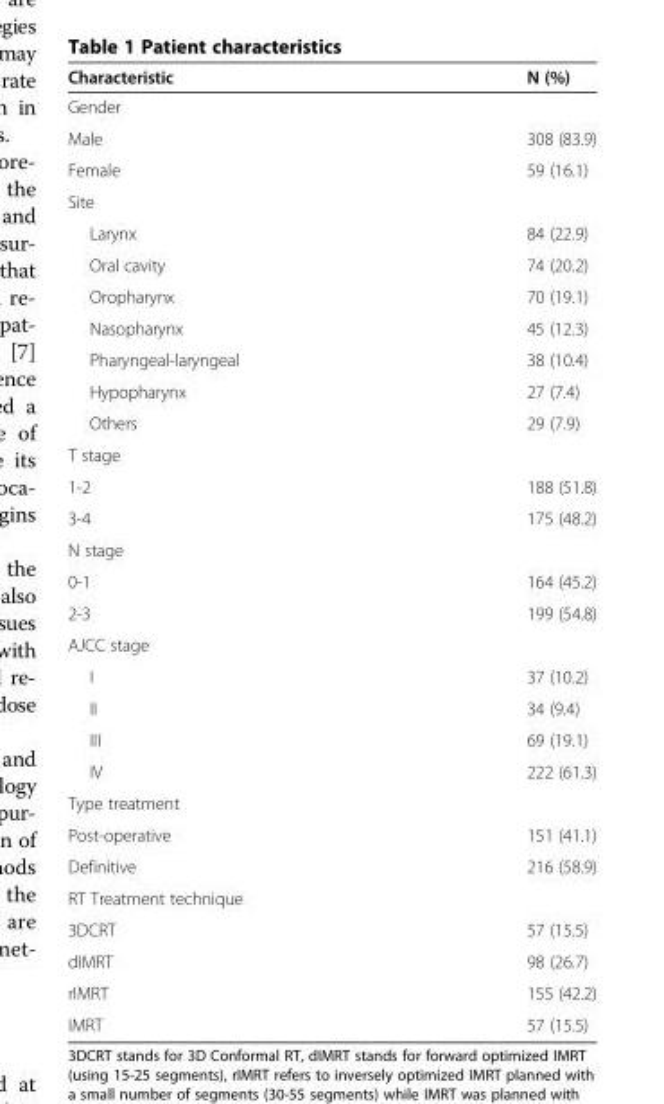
<table><thead><tr><td>Characteristic</td><td>N (%)</td></tr></thead><tbody><tr><td colspan="2">Gender</td></tr><tr><td>Male</td><td>308 (83.9)</td></tr><tr><td>Female</td><td>59 (16.1)</td></tr><tr><td colspan="2">Site</td></tr><tr><td>Larynx</td><td>84 (22.9)</td></tr><tr><td>Oral cavity</td><td>74 (20.2)</td></tr><tr><td>Oropharynx</td><td>70 (19.1)</td></tr><tr><td>Nasopharynx</td><td>45 (12.3)</td></tr><tr><td>Pharyngeal-laryngeal</td><td>38 (10.4)</td></tr><tr><td>Hypopharynx</td><td>27 (7.4)</td></tr><tr><td>Others</td><td>29 (7.9)</td></tr><tr><td colspan="2">T stage</td></tr><tr><td>1-2</td><td>188 (51.8)</td></tr><tr><td>3-4</td><td>175 (48.2)</td></tr><tr><td colspan="2">N stage</td></tr><tr><td>0-1</td><td>164 (45.2)</td></tr><tr><td>2-3</td><td>199 (54.8)</td></tr><tr><td colspan="2">AJCC stage</td></tr><tr><td>I</td><td>37 (10.2)</td></tr><tr><td>II</td><td>34 (9.4)</td></tr><tr><td>III</td><td>69 (19.1)</td></tr><tr><td>IV</td><td>222 (61.3)</td></tr><tr><td colspan="2">Type treatment</td></tr><tr><td>Post-operative</td><td>151 (41.1)</td></tr><tr><td>Definitive</td><td>216 (58.9)</td></tr><tr><td colspan="2">RT Treatment technique</td></tr><tr><td>3DCRT</td><td>57 (15.5)</td></tr><tr><td>dIMRT</td><td>98 (26.7)</td></tr><tr><td>rIMRT</td><td>155 (42.2)</td></tr><tr><td>IMRT</td><td>57 (15.5)</td></tr></tbody></table>